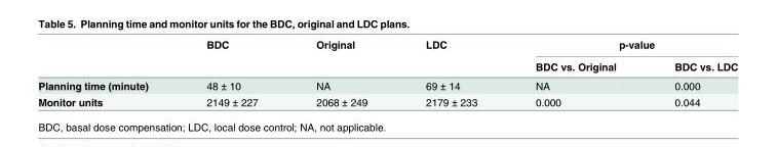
<table><thead><tr><td rowspan="2"></td><td rowspan="2">BDC</td><td rowspan="2">Original</td><td rowspan="2">LDC</td><td colspan="2">p-value</td></tr><tr><td>BDC vs. Original</td><td>BDC vs. LDC</td></tr></thead><tbody><tr><td>Planning time (minute)</td><td>48 ± 10</td><td>NA</td><td>69 ± 14</td><td>NA</td><td>0.000</td></tr><tr><td>Monitor units</td><td>2149 ± 227</td><td>2068 ± 249</td><td>2179 ± 233</td><td>0.000</td><td>0.044</td></tr></tbody></table>